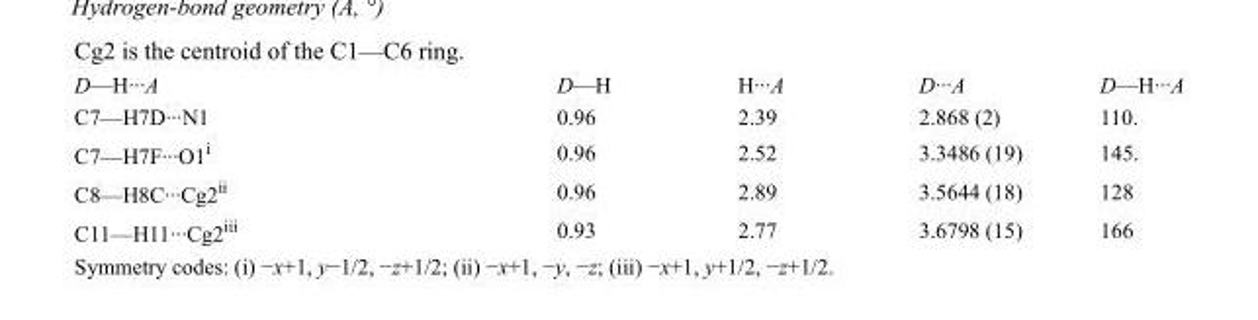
<table><tbody><tr><td>D—H···A</td><td>D—H</td><td>H···A</td><td>D···A</td><td>D—H···A</td></tr><tr><td>C7—H7D···N1</td><td>0.96</td><td>2.39</td><td>2.868 (2)</td><td>110.</td></tr><tr><td>C7—H7F···O1<sup>i</sup></td><td>0.96</td><td>2.52</td><td>3.3486 (19)</td><td>145.</td></tr><tr><td>C8—H8C···Cg2<sup>ii</sup></td><td>0.96</td><td>2.89</td><td>3.5644 (18)</td><td>128</td></tr><tr><td>C11—H11···Cg2<sup>iii</sup></td><td>0.93</td><td>2.77</td><td>3.6798 (15)</td><td>166</td></tr></tbody></table>